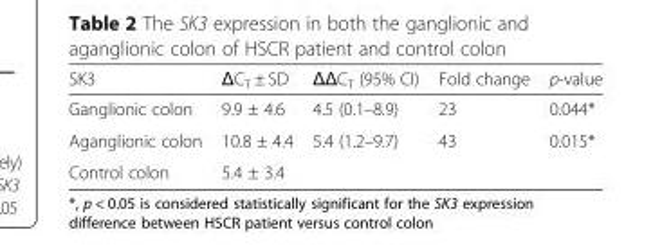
<table><thead><tr><td>SK3</td><td>ΔC<sub>T</sub> ± SD</td><td>ΔΔC<sub>T</sub> (95% CI)</td><td>Fold change</td><td>p-value</td></tr></thead><tbody><tr><td>Ganglionic colon</td><td>9.9 ± 4.6</td><td>4.5 (0.1–8.9)</td><td>23</td><td>0.044*</td></tr><tr><td>Aganglionic colon</td><td>10.8 ± 4.4</td><td>5.4 (1.2–9.7)</td><td>43</td><td>0.015*</td></tr><tr><td>Control colon</td><td>5.4 ± 3.4</td><td></td><td></td><td></td></tr></tbody></table>